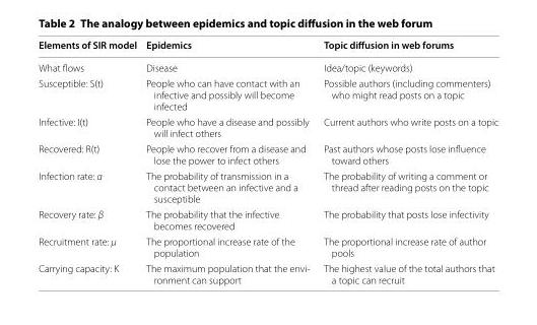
<table><thead><tr><td>Elements of SIR model</td><td>Epidemics</td><td>Topic diffusion in web forums</td></tr></thead><tbody><tr><td>What flows</td><td>Disease</td><td>Idea/topic (keywords)</td></tr><tr><td>Susceptible: S(t)</td><td>People who can have contact with an infective and possibly will become infected</td><td>Possible authors (including commenters) who might read posts on a topic</td></tr><tr><td>Infective: I(t)</td><td>People who have a disease and possibly will infect others</td><td>Current authors who write posts on a topic</td></tr><tr><td>Recovered: R(t)</td><td>People who recover from a disease and lose the power to infect others</td><td>Past authors whose posts lose influence toward others</td></tr><tr><td>Infection rate: α</td><td>The probability of transmission in a contact between an infective and a susceptible</td><td>The probability of writing a comment or thread after reading posts on the topic</td></tr><tr><td>Recovery rate: β</td><td>The probability that the infective becomes recovered</td><td>The probability that posts lose infectivity</td></tr><tr><td>Recruitment rate: μ</td><td>The proportional increase rate of the population</td><td>The proportional increase rate of author pools</td></tr><tr><td>Carrying capacity: K</td><td>The maximum population that the envi- ronment can support</td><td>The highest value of the total authors that a topic can recruit</td></tr></tbody></table>